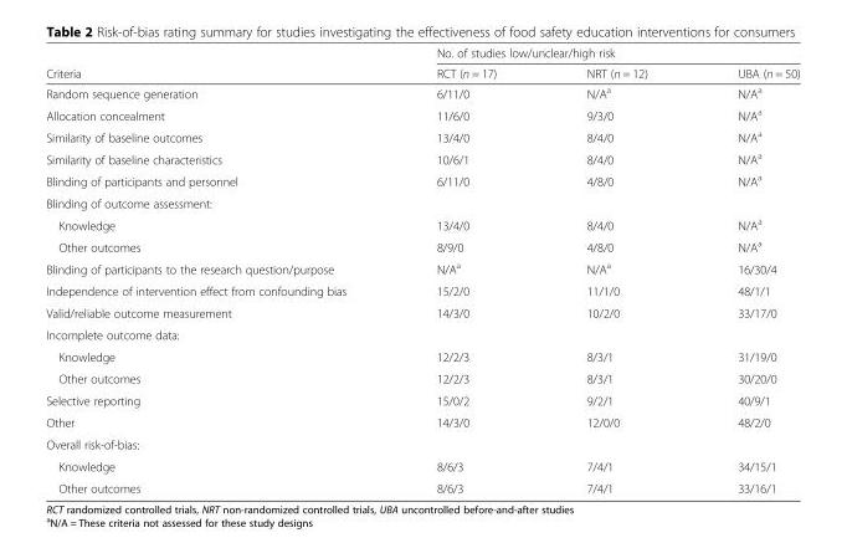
<table><thead><tr><td rowspan="2">Criteria</td><td colspan="3">No. of studies low/unclear/high risk</td></tr><tr><td>RCT (n = 17)</td><td>NRT (n = 12)</td><td>UBA (n = 50)</td></tr></thead><tbody><tr><td>Random sequence generation</td><td>6/11/0</td><td>N/A<sup>a</sup></td><td>N/A<sup>a</sup></td></tr><tr><td>Allocation concealment</td><td>11/6/0</td><td>9/3/0</td><td>N/A<sup>a</sup></td></tr><tr><td>Similarity of baseline outcomes</td><td>13/4/0</td><td>8/4/0</td><td>N/A<sup>a</sup></td></tr><tr><td>Similarity of baseline characteristics</td><td>10/6/1</td><td>8/4/0</td><td>N/A<sup>a</sup></td></tr><tr><td>Blinding of participants and personnel</td><td>6/11/0</td><td>4/8/0</td><td>N/A<sup>a</sup></td></tr><tr><td colspan="4">Blinding of outcome assessment:</td></tr><tr><td>Knowledge</td><td>13/4/0</td><td>8/4/0</td><td>N/A<sup>a</sup></td></tr><tr><td>Other outcomes</td><td>8/9/0</td><td>4/8/0</td><td>N/A<sup>a</sup></td></tr><tr><td>Blinding of participants to the research question/purpose</td><td>N/A<sup>a</sup></td><td>N/A<sup>a</sup></td><td>16/30/4</td></tr><tr><td>Independence of intervention effect from confounding bias</td><td>15/2/0</td><td>11/1/0</td><td>48/1/1</td></tr><tr><td>Valid/reliable outcome measurement</td><td>14/3/0</td><td>10/2/0</td><td>33/17/0</td></tr><tr><td colspan="4">Incomplete outcome data:</td></tr><tr><td>Knowledge</td><td>12/2/3</td><td>8/3/1</td><td>31/19/0</td></tr><tr><td>Other outcomes</td><td>12/2/3</td><td>8/3/1</td><td>30/20/0</td></tr><tr><td>Selective reporting</td><td>15/0/2</td><td>9/2/1</td><td>40/9/1</td></tr><tr><td>Other</td><td>14/3/0</td><td>12/0/0</td><td>48/2/0</td></tr><tr><td colspan="4">Overall risk-of-bias:</td></tr><tr><td>Knowledge</td><td>8/6/3</td><td>7/4/1</td><td>34/15/1</td></tr><tr><td>Other outcomes</td><td>8/6/3</td><td>7/4/1</td><td>33/16/1</td></tr></tbody></table>